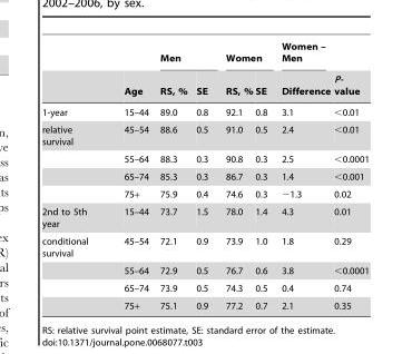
<table><thead><tr><td rowspan="2"></td><td rowspan="2">Age</td><td colspan="2">Men</td><td colspan="2">Women</td><td rowspan="2">Women – Men Difference</td><td rowspan="2">P- value</td></tr><tr><td>RS, %</td><td>SE</td><td>RS, %</td><td>SE</td></tr></thead><tbody><tr><td>1-year</td><td>15–44</td><td>89.0</td><td>0.8</td><td>92.1</td><td>0.8</td><td>3.1</td><td>&lt;0.01</td></tr><tr><td rowspan="4">relative survival</td><td>45–54</td><td>88.6</td><td>0.5</td><td>91.0</td><td>0.5</td><td>2.4</td><td>&lt;0.01</td></tr><tr><td>55–64</td><td>88.3</td><td>0.3</td><td>90.8</td><td>0.3</td><td>2.5</td><td>&lt;0.0001</td></tr><tr><td>65–74</td><td>85.3</td><td>0.3</td><td>86.7</td><td>0.3</td><td>1.4</td><td>&lt;0.001</td></tr><tr><td>75+</td><td>75.9</td><td>0.4</td><td>74.6</td><td>0.3</td><td>−1.3</td><td>0.02</td></tr><tr><td>2nd to 5th year</td><td>15–44</td><td>73.7</td><td>1.5</td><td>78.0</td><td>1.4</td><td>4.3</td><td>0.01</td></tr><tr><td rowspan="4">conditional survival</td><td>45–54</td><td>72.1</td><td>0.9</td><td>73.9</td><td>1.0</td><td>1.8</td><td>0.29</td></tr><tr><td>55–64</td><td>72.9</td><td>0.5</td><td>76.7</td><td>0.6</td><td>3.8</td><td>&lt;0.0001</td></tr><tr><td>65–74</td><td>73.9</td><td>0.5</td><td>74.3</td><td>0.5</td><td>0.4</td><td>0.74</td></tr><tr><td>75+</td><td>75.1</td><td>0.9</td><td>77.2</td><td>0.7</td><td>2.1</td><td>0.35</td></tr></tbody></table>